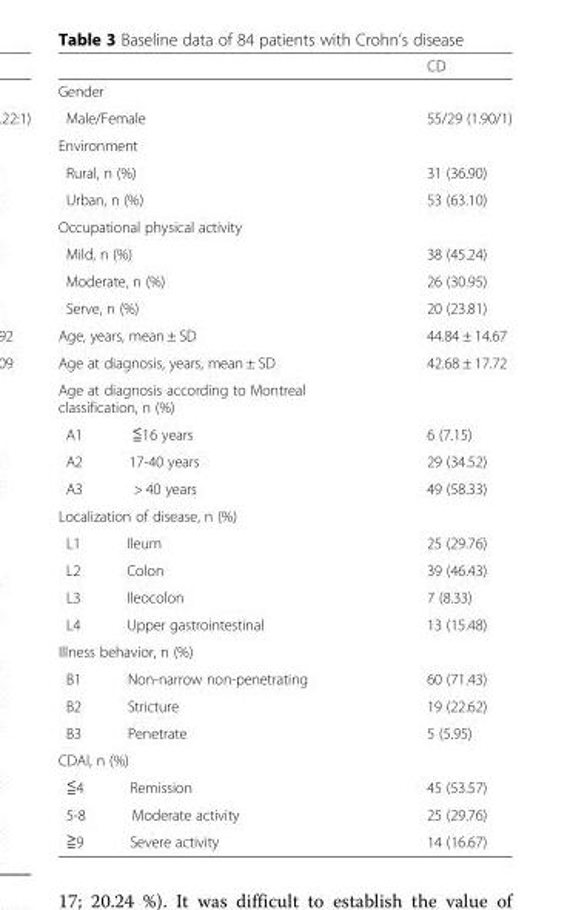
<table><thead><tr><td></td><td>CD</td></tr></thead><tbody><tr><td colspan="2">Gender</td></tr><tr><td>Male/Female</td><td>55/29 (1.90/1)</td></tr><tr><td colspan="2">Environment</td></tr><tr><td>Rural, n (%)</td><td>31 (36.90)</td></tr><tr><td>Urban, n (%)</td><td>53 (63.10)</td></tr><tr><td colspan="2">Occupational physical activity</td></tr><tr><td>Mild, n (%)</td><td>38 (45.24)</td></tr><tr><td>Moderate, n (%)</td><td>26 (30.95)</td></tr><tr><td>Serve, n (%)</td><td>20 (23.81)</td></tr><tr><td>Age, years, mean ± SD</td><td>44.84 ± 14.67</td></tr><tr><td>Age at diagnosis, years, mean ± SD</td><td>42.68 ± 17.72</td></tr><tr><td colspan="2">Age at diagnosis according to Montreal classification, n (%)</td></tr><tr><td>A1 ≦16 years</td><td>6 (7.15)</td></tr><tr><td>A2 17-40 years</td><td>29 (34.52)</td></tr><tr><td>A3 &gt; 40 years</td><td>49 (58.33)</td></tr><tr><td colspan="2">Localization of disease, n (%)</td></tr><tr><td>L1 Ileum</td><td>25 (29.76)</td></tr><tr><td>L2 Colon</td><td>39 (46.43)</td></tr><tr><td>L3 Ileocolon</td><td>7 (8.33)</td></tr><tr><td>L4 Upper gastrointestinal</td><td>13 (15.48)</td></tr><tr><td colspan="2">Illness behavior, n (%)</td></tr><tr><td>B1 Non-narrow non-penetrating</td><td>60 (71.43)</td></tr><tr><td>B2 Stricture</td><td>19 (22.62)</td></tr><tr><td>B3 Penetrate</td><td>5 (5.95)</td></tr><tr><td colspan="2">CDAI, n (%)</td></tr><tr><td>≦4 Remission</td><td>45 (53.57)</td></tr><tr><td>5-8 Moderate activity</td><td>25 (29.76)</td></tr><tr><td>≧9 Severe activity</td><td>14 (16.67)</td></tr></tbody></table>